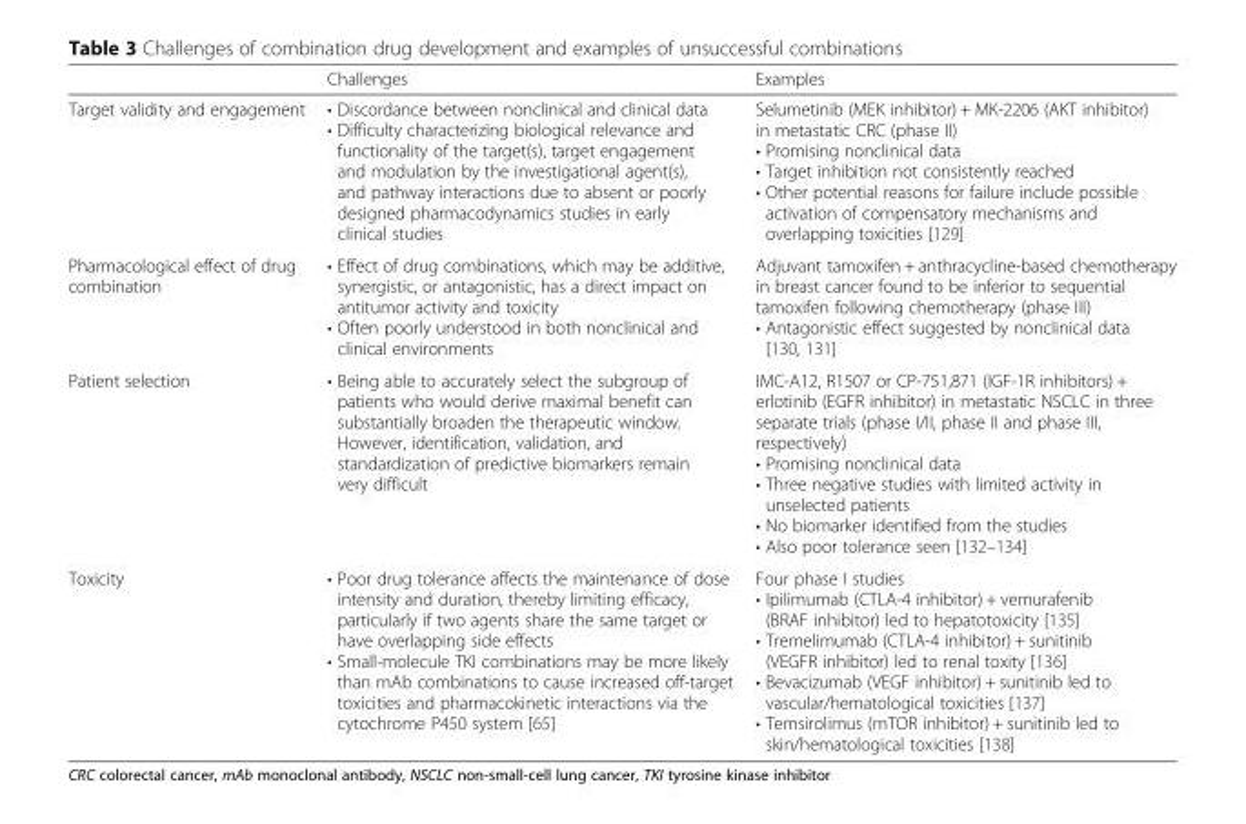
<table><thead><tr><td></td><td>Challenges</td><td>Examples</td></tr></thead><tbody><tr><td>Target validity and engagement</td><td>• Discordance between nonclinical and clinical data • Difficulty characterizing biological relevance and functionality of the target(s), target engagement and modulation by the investigational agent(s), and pathway interactions due to absent or poorly designed pharmacodynamics studies in early clinical studies</td><td>Selumetinib (MEK inhibitor) + MK-2206 (AKT inhibitor) in metastatic CRC (phase II) • Promising nonclinical data • Target inhibition not consistently reached • Other potential reasons for failure include possible activation of compensatory mechanisms and overlapping toxicities [129]</td></tr><tr><td>Pharmacological effect of drug combination</td><td>• Effect of drug combinations, which may be additive, synergistic, or antagonistic, has a direct impact on antitumor activity and toxicity • Often poorly understood in both nonclinical and clinical environments</td><td>Adjuvant tamoxifen + anthracycline-based chemotherapy in breast cancer found to be inferior to sequential tamoxifen following chemotherapy (phase III) • Antagonistic effect suggested by nonclinical data [130, 131]</td></tr><tr><td>Patient selection</td><td>• Being able to accurately select the subgroup of patients who would derive maximal benefit can substantially broaden the therapeutic window. However, identification, validation, and standardization of predictive biomarkers remain very difficult</td><td>IMC-A12, R1507 or CP-751,871 (IGF-1R inhibitors) + erlotinib (EGFR inhibitor) in metastatic NSCLC in three separate trials (phase I/II, phase II and phase III, respectively) • Promising nonclinical data • Three negative studies with limited activity in unselected patients • No biomarker identified from the studies • Also poor tolerance seen [132–134]</td></tr><tr><td>Toxicity</td><td>• Poor drug tolerance affects the maintenance of dose intensity and duration, thereby limiting efficacy, particularly if two agents share the same target or have overlapping side effects • Small-molecule TKI combinations may be more likely than mAb combinations to cause increased off-target toxicities and pharmacokinetic interactions via the cytochrome P450 system [65]</td><td>Four phase I studies • Ipilimumab (CTLA-4 inhibitor) + vemurafenib (BRAF inhibitor) led to hepatotoxicity [135] • Tremelimumab (CTLA-4 inhibitor) + sunitinib (VEGFR inhibitor) led to renal toxity [136] • Bevacizumab (VEGF inhibitor) + sunitinib led to vascular/hematological toxicities [137] • Temsirolimus (mTOR inhibitor) + sunitinib led to skin/hematological toxicities [138]</td></tr></tbody></table>